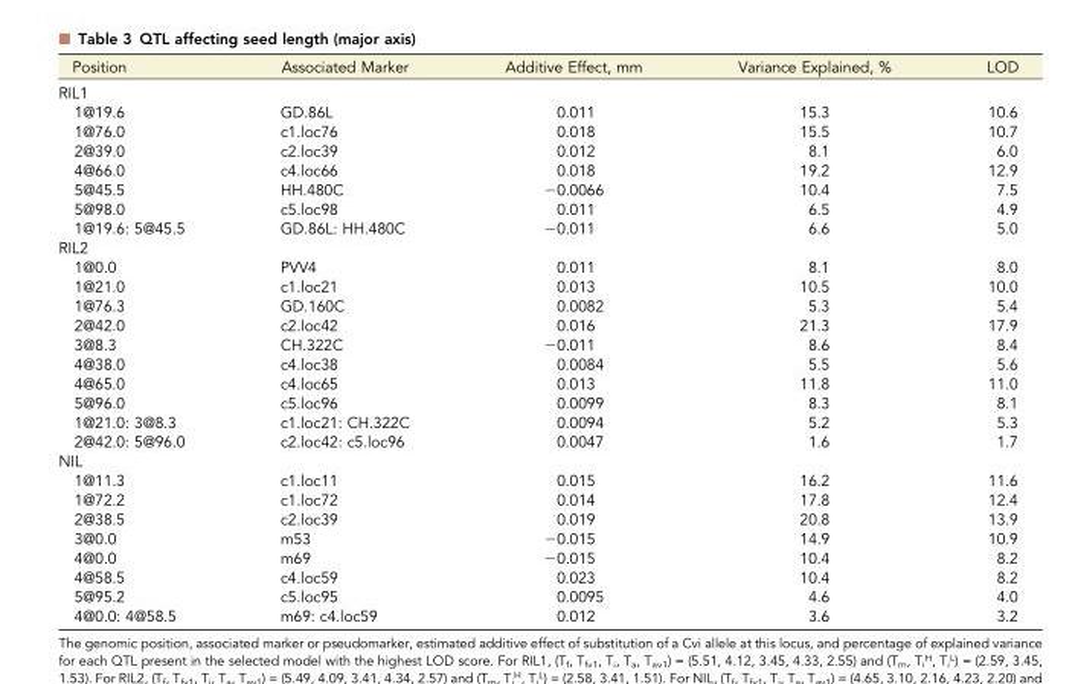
<table><thead><tr><td>Position</td><td>Associated Marker</td><td>Additive Effect, mm</td><td>Variance Explained, %</td><td>LOD</td></tr></thead><tbody><tr><td colspan="5">RIL1</td></tr><tr><td>1@19.6</td><td>GD.86L</td><td>0.011</td><td>15.3</td><td>10.6</td></tr><tr><td>1@76.0</td><td>c1.loc76</td><td>0.018</td><td>15.5</td><td>10.7</td></tr><tr><td>2@39.0</td><td>c2.loc39</td><td>0.012</td><td>8.1</td><td>6.0</td></tr><tr><td>4@66.0</td><td>c4.loc66</td><td>0.018</td><td>19.2</td><td>12.9</td></tr><tr><td>5@45.5</td><td>HH.480C</td><td>−0.0066</td><td>10.4</td><td>7.5</td></tr><tr><td>5@98.0</td><td>c5.loc98</td><td>0.011</td><td>6.5</td><td>4.9</td></tr><tr><td>1@19.6: 5@45.5</td><td>GD.86L: HH.480C</td><td>−0.011</td><td>6.6</td><td>5.0</td></tr><tr><td colspan="5">RIL2</td></tr><tr><td>1@0.0</td><td>PVV4</td><td>0.011</td><td>8.1</td><td>8.0</td></tr><tr><td>1@21.0</td><td>c1.loc21</td><td>0.013</td><td>10.5</td><td>10.0</td></tr><tr><td>1@76.3</td><td>GD.160C</td><td>0.0082</td><td>5.3</td><td>5.4</td></tr><tr><td>2@42.0</td><td>c2.loc42</td><td>0.016</td><td>21.3</td><td>17.9</td></tr><tr><td>3@8.3</td><td>CH.322C</td><td>−0.011</td><td>8.6</td><td>8.4</td></tr><tr><td>4@38.0</td><td>c4.loc38</td><td>0.0084</td><td>5.5</td><td>5.6</td></tr><tr><td>4@65.0</td><td>c4.loc65</td><td>0.013</td><td>11.8</td><td>11.0</td></tr><tr><td>5@96.0</td><td>c5.loc96</td><td>0.0099</td><td>8.3</td><td>8.1</td></tr><tr><td>1@21.0: 3@8.3</td><td>c1.loc21: CH.322C</td><td>0.0094</td><td>5.2</td><td>5.3</td></tr><tr><td>2@42.0: 5@96.0</td><td>c2.loc42: c5.loc96</td><td>0.0047</td><td>1.6</td><td>1.7</td></tr><tr><td colspan="5">NIL</td></tr><tr><td>1@11.3</td><td>c1.loc11</td><td>0.015</td><td>16.2</td><td>11.6</td></tr><tr><td>1@72.2</td><td>c1.loc72</td><td>0.014</td><td>17.8</td><td>12.4</td></tr><tr><td>2@38.5</td><td>c2.loc39</td><td>0.019</td><td>20.8</td><td>13.9</td></tr><tr><td>3@0.0</td><td>m53</td><td>−0.015</td><td>14.9</td><td>10.9</td></tr><tr><td>4@0.0</td><td>m69</td><td>−0.015</td><td>10.4</td><td>8.2</td></tr><tr><td>4@58.5</td><td>c4.loc59</td><td>0.023</td><td>10.4</td><td>8.2</td></tr><tr><td>5@95.2</td><td>c5.loc95</td><td>0.0095</td><td>4.6</td><td>4.0</td></tr><tr><td>4@0.0: 4@58.5</td><td>m69: c4.loc59</td><td>0.012</td><td>3.6</td><td>3.2</td></tr></tbody></table>